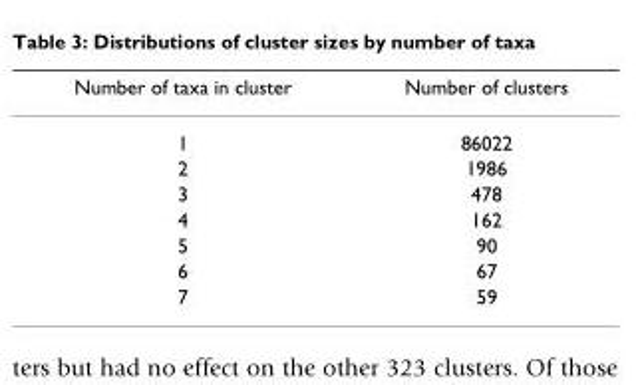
<table><thead><tr><td>Number of taxa in cluster</td><td>Number of clusters</td></tr></thead><tbody><tr><td>1</td><td>86022</td></tr><tr><td>2</td><td>1986</td></tr><tr><td>3</td><td>478</td></tr><tr><td>4</td><td>162</td></tr><tr><td>5</td><td>90</td></tr><tr><td>6</td><td>67</td></tr><tr><td>7</td><td>59</td></tr></tbody></table>